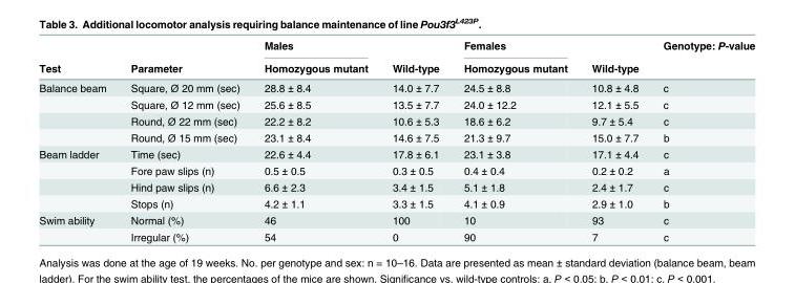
<table><thead><tr><td rowspan="2">Test</td><td rowspan="2">Parameter</td><td rowspan="2">Males Homozygous mutant</td><td rowspan="2">Wild-type</td><td rowspan="2">Females Homozygous mutant</td><td rowspan="2">Wild-type</td><td rowspan="2">Genotype: P-value</td></tr><tr></tr></thead><tbody><tr><td rowspan="4">Balance beam</td><td>Square, Ø 20 mm (sec)</td><td>28.8 ± 8.4</td><td>14.0 ± 7.7</td><td>24.5 ± 8.8</td><td>10.8 ± 4.8</td><td>c</td></tr><tr><td>Square, Ø 12 mm (sec)</td><td>25.6 ± 8.5</td><td>13.5 ± 7.7</td><td>24.0 ± 12.2</td><td>12.1 ± 5.5</td><td>c</td></tr><tr><td>Round, Ø 22 mm (sec)</td><td>22.2 ± 8.2</td><td>10.6 ± 5.3</td><td>18.6 ± 6.2</td><td>9.7 ± 5.4</td><td>c</td></tr><tr><td>Round, Ø 15 mm (sec)</td><td>23.1 ± 8.4</td><td>14.6 ± 7.5</td><td>21.3 ± 9.7</td><td>15.0 ± 7.7</td><td>b</td></tr><tr><td rowspan="4">Beam ladder</td><td>Time (sec)</td><td>22.6 ± 4.4</td><td>17.8 ± 6.1</td><td>23.1 ± 3.8</td><td>17.1 ± 4.4</td><td>c</td></tr><tr><td>Fore paw slips (n)</td><td>0.5 ± 0.5</td><td>0.3 ± 0.5</td><td>0.4 ± 0.4</td><td>0.2 ± 0.2</td><td>a</td></tr><tr><td>Hind paw slips (n)</td><td>6.6 ± 2.3</td><td>3.4 ± 1.5</td><td>5.1 ± 1.8</td><td>2.4 ± 1.7</td><td>c</td></tr><tr><td>Stops (n)</td><td>4.2 ± 1.1</td><td>3.3 ± 1.5</td><td>4.1 ± 0.9</td><td>2.9 ± 1.0</td><td>b</td></tr><tr><td rowspan="2">Swim ability</td><td>Normal (%)</td><td>46</td><td>100</td><td>10</td><td>93</td><td>c</td></tr><tr><td>Irregular (%)</td><td>54</td><td>0</td><td>90</td><td>7</td><td>c</td></tr></tbody></table>